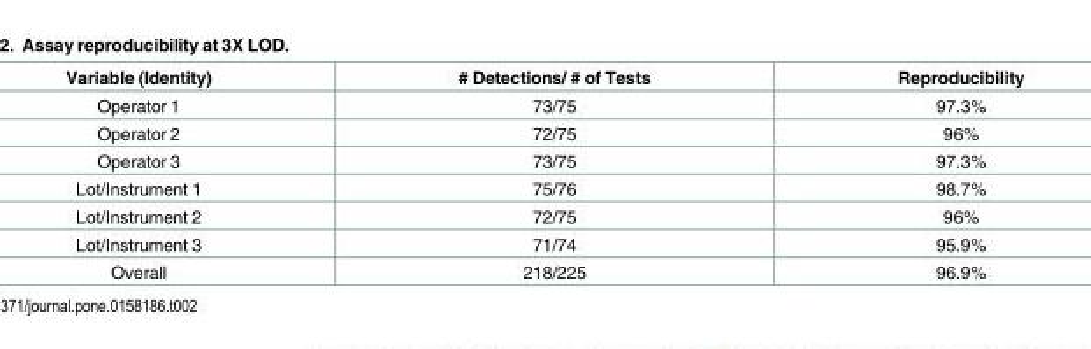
<table><thead><tr><td>Variable (Identity)</td><td># Detections/ # of Tests</td><td>Reproducibility</td></tr></thead><tbody><tr><td>Operator 1</td><td>73/75</td><td>97.3%</td></tr><tr><td>Operator 2</td><td>72/75</td><td>96%</td></tr><tr><td>Operator 3</td><td>73/75</td><td>97.3%</td></tr><tr><td>Lot/Instrument 1</td><td>75/76</td><td>98.7%</td></tr><tr><td>Lot/Instrument 2</td><td>72/75</td><td>96%</td></tr><tr><td>Lot/Instrument 3</td><td>71/74</td><td>95.9%</td></tr><tr><td>Overall</td><td>218/225</td><td>96.9%</td></tr></tbody></table>